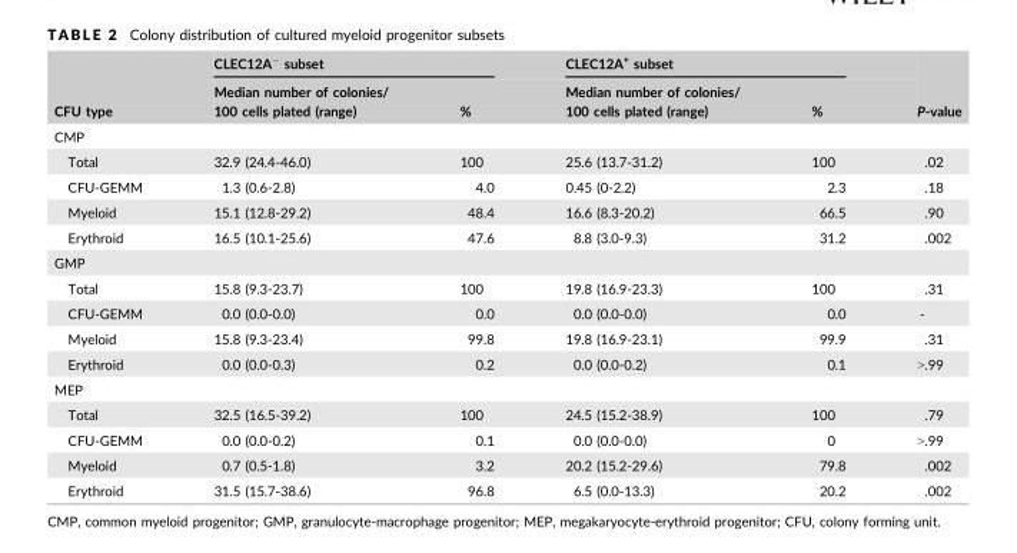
<table><thead><tr><td rowspan="2">CFU type</td><td colspan="2">CLEC12A<sup>−</sup> subset</td><td colspan="2">CLEC12A<sup>+</sup> subset</td><td rowspan="2">P-value</td></tr><tr><td>Median number of colonies/ 100 cells plated (range)</td><td>%</td><td>Median number of colonies/ 100 cells plated (range)</td><td>%</td></tr></thead><tbody><tr><td colspan="6">CMP</td></tr><tr><td>Total</td><td>32.9 (24.4-46.0)</td><td>100</td><td>25.6 (13.7-31.2)</td><td>100</td><td>.02</td></tr><tr><td>CFU-GEMM</td><td>1.3 (0.6-2.8)</td><td>4.0</td><td>0.45 (0-2.2)</td><td>2.3</td><td>.18</td></tr><tr><td>Myeloid</td><td>15.1 (12.8-29.2)</td><td>48.4</td><td>16.6 (8.3-20.2)</td><td>66.5</td><td>.90</td></tr><tr><td>Erythroid</td><td>16.5 (10.1-25.6)</td><td>47.6</td><td>8.8 (3.0-9.3)</td><td>31.2</td><td>.002</td></tr><tr><td colspan="6">GMP</td></tr><tr><td>Total</td><td>15.8 (9.3-23.7)</td><td>100</td><td>19.8 (16.9-23.3)</td><td>100</td><td>.31</td></tr><tr><td>CFU-GEMM</td><td>0.0 (0.0-0.0)</td><td>0.0</td><td>0.0 (0.0-0.0)</td><td>0.0</td><td>-</td></tr><tr><td>Myeloid</td><td>15.8 (9.3-23.4)</td><td>99.8</td><td>19.8 (16.9-23.1)</td><td>99.9</td><td>.31</td></tr><tr><td>Erythroid</td><td>0.0 (0.0-0.3)</td><td>0.2</td><td>0.0 (0.0-0.2)</td><td>0.1</td><td>&gt;.99</td></tr><tr><td colspan="6">MEP</td></tr><tr><td>Total</td><td>32.5 (16.5-39.2)</td><td>100</td><td>24.5 (15.2-38.9)</td><td>100</td><td>.79</td></tr><tr><td>CFU-GEMM</td><td>0.0 (0.0-0.2)</td><td>0.1</td><td>0.0 (0.0-0.0)</td><td>0</td><td>&gt;.99</td></tr><tr><td>Myeloid</td><td>0.7 (0.5-1.8)</td><td>3.2</td><td>20.2 (15.2-29.6)</td><td>79.8</td><td>.002</td></tr><tr><td>Erythroid</td><td>31.5 (15.7-38.6)</td><td>96.8</td><td>6.5 (0.0-13.3)</td><td>20.2</td><td>.002</td></tr></tbody></table>